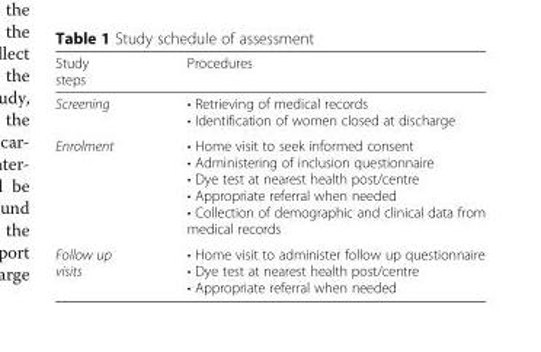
<table><thead><tr><td>Study steps</td><td>Procedures</td></tr></thead><tbody><tr><td>Screening</td><td>• Retrieving of medical records • Identification of women closed at discharge</td></tr><tr><td>Enrolment</td><td>• Home visit to seek informed consent • Administering of inclusion questionnaire • Dye test at nearest health post/centre • Appropriate referral when needed • Collection of demographic and clinical data from medical records</td></tr><tr><td>Follow up visits</td><td>• Home visit to administer follow up questionnaire • Dye test at nearest health post/centre • Appropriate referral when needed</td></tr></tbody></table>